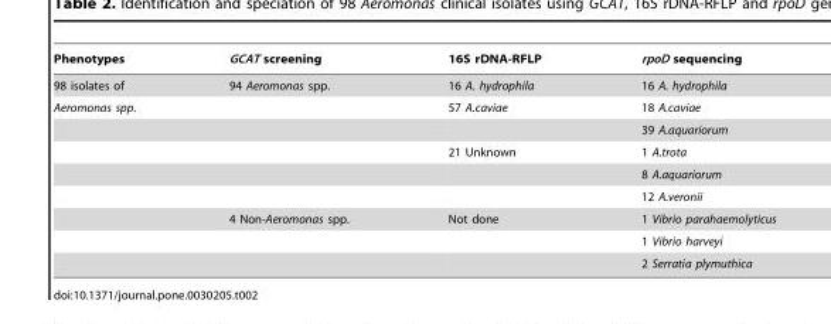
<table><thead><tr><td>Phenotypes</td><td>GCAT screening</td><td>16S rDNA-RFLP</td><td>rpoD sequencing</td></tr></thead><tbody><tr><td>98 isolates of</td><td>94 Aeromonas spp.</td><td>16 A. hydrophila</td><td>16 A. hydrophila</td></tr><tr><td rowspan="8">Aeromonas spp.</td><td></td><td>57 A.caviae</td><td>18 A.caviae</td></tr><tr><td></td><td></td><td>39 A.aquariorum</td></tr><tr><td></td><td>21 Unknown</td><td>1 A.trota</td></tr><tr><td></td><td></td><td>8 A.aquariorum</td></tr><tr><td></td><td></td><td>12 A.veronii</td></tr><tr><td>4 Non-Aeromonas spp.</td><td>Not done</td><td>1 Vibrio parahaemolyticus</td></tr><tr><td></td><td></td><td>1 Vibrio harveyi</td></tr><tr><td></td><td></td><td>2 Serratia plymuthica</td></tr></tbody></table>